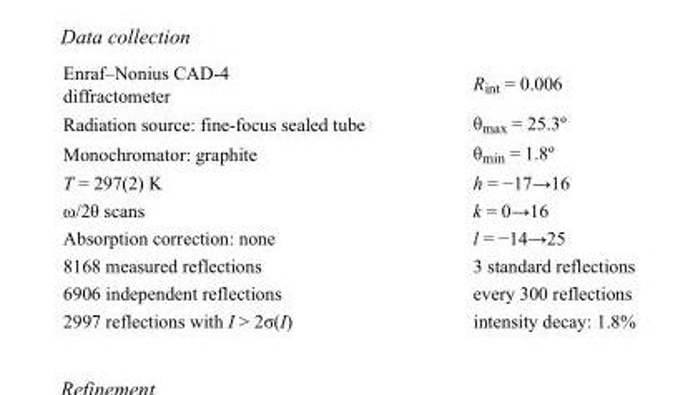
<table><tbody><tr><td>Enraf–Nonius CAD-4 diffractometer</td><td>R<sub>int</sub> = 0.006</td></tr><tr><td>Radiation source: fine-focus sealed tube</td><td>θ<sub>max</sub> = 25.3º</td></tr><tr><td>Monochromator: graphite</td><td>θ<sub>min</sub> = 1.8º</td></tr><tr><td>T = 297(2) K</td><td>h = −17→16</td></tr><tr><td>ω/2θ scans</td><td>k = 0→16</td></tr><tr><td>Absorption correction: none</td><td>l = −14→25</td></tr><tr><td>8168 measured reflections</td><td>3 standard reflections</td></tr><tr><td>6906 independent reflections</td><td>every 300 reflections</td></tr><tr><td>2997 reflections with I &gt; 2σ(I)</td><td>intensity decay: 1.8%</td></tr></tbody></table>